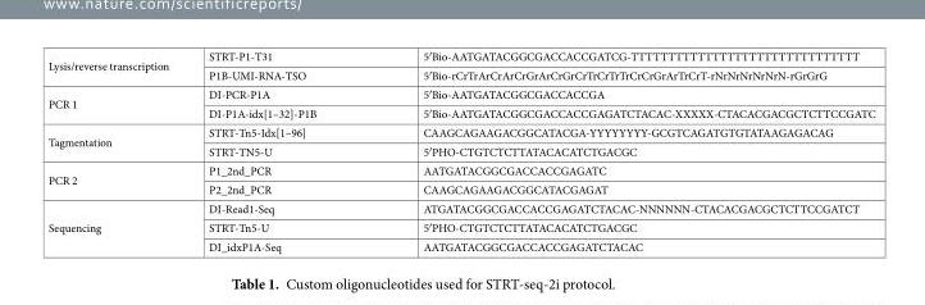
<table><tbody><tr><td rowspan="2">Lysis/reverse transcription</td><td>STRT-P1-T31</td><td>5′Bio-AATGATACGGCGACCACCGATCG-TTTTTTTTTTTTTTTTTTTTTTTTTTTTTTT</td></tr><tr><td>P1B-UMI-RNA-TSO</td><td>5′Bio-rCrTrArCrArCrGrArCrGrCrTrCrTrTrCrCrGrArTrCrT-rNrNrNrNrNrN-rGrGrG</td></tr><tr><td rowspan="2">PCR 1</td><td>DI-PCR-P1A</td><td>5′Bio-AATGATACGGCGACCACCGA</td></tr><tr><td>DI-P1A-idx[1–32]-P1B</td><td>5′Bio-AATGATACGGCGACCACCGAGATCTACAC-XXXXX-CTACACGACGCTCTTCCGATC</td></tr><tr><td rowspan="2">Tagmentation</td><td>STRT-Tn5-Idx[1–96]</td><td>CAAGCAGAAGACGGCATACGA-YYYYYYYY-GCGTCAGATGTGTATAAGAGACAG</td></tr><tr><td>STRT-TN5-U</td><td>5′PHO-CTGTCTCTTATACACATCTGACGC</td></tr><tr><td rowspan="2">PCR 2</td><td>P1_2nd_PCR</td><td>AATGATACGGCGACCACCGAGATC</td></tr><tr><td>P2_2nd_PCR</td><td>CAAGCAGAAGACGGCATACGAGAT</td></tr><tr><td rowspan="3">Sequencing</td><td>DI-Read1-Seq</td><td>ATGATACGGCGACCACCGAGATCTACAC-NNNNNN-CTACACGACGCTCTTCCGATCT</td></tr><tr><td>STRT-Tn5-U</td><td>5′PHO-CTGTCTCTTATACACATCTGACGC</td></tr><tr><td>DI_idxP1A-Seq</td><td>AATGATACGGCGACCACCGAGATCTACAC</td></tr></tbody></table>